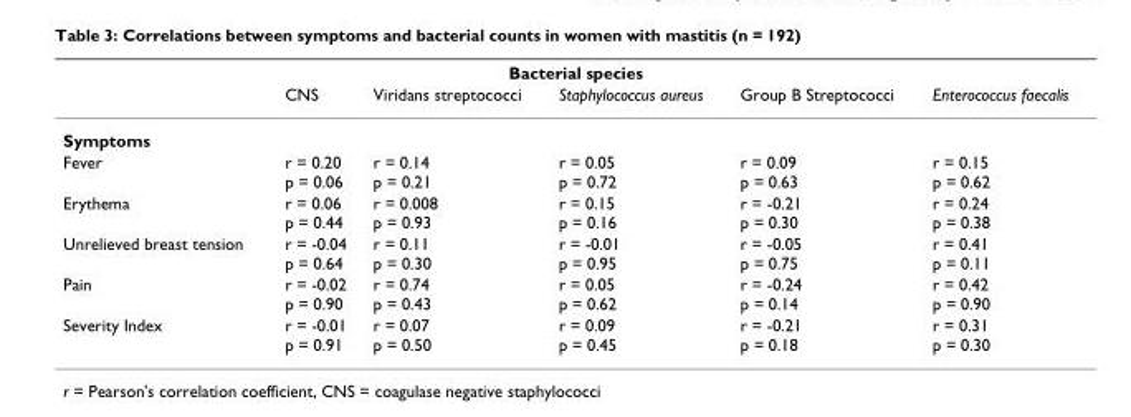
<table><thead><tr><td colspan="6">Bacterial species</td></tr><tr><td></td><td>CNS</td><td>Viridans streptococci</td><td>Staphylococcus aureus</td><td>Group B Streptococci</td><td>Enterococcus faecalis</td></tr></thead><tbody><tr><td colspan="6">Symptoms</td></tr><tr><td>Fever</td><td>r = 0.20 p = 0.06</td><td>r = 0.14 p = 0.21</td><td>r = 0.05 p = 0.72</td><td>r = 0.09 p = 0.63</td><td>r = 0.15 p = 0.62</td></tr><tr><td>Erythema</td><td>r = 0.06 p = 0.44</td><td>r = 0.008 p = 0.93</td><td>r = 0.15 p = 0.16</td><td>r = -0.21 p = 0.30</td><td>r = 0.24 p = 0.38</td></tr><tr><td>Unrelieved breast tension</td><td>r = -0.04 p = 0.64</td><td>r = 0.11 p = 0.30</td><td>r = -0.01 p = 0.95</td><td>r = -0.05 p = 0.75</td><td>r = 0.41 p = 0.11</td></tr><tr><td>Pain</td><td>r = -0.02 p = 0.90</td><td>r = 0.74 p = 0.43</td><td>r = 0.05 p = 0.62</td><td>r = -0.24 p = 0.14</td><td>r = 0.42 p = 0.90</td></tr><tr><td>Severity Index</td><td>r = -0.01 p = 0.91</td><td>r = 0.07 p = 0.50</td><td>r = 0.09 p = 0.45</td><td>r = -0.21 p = 0.18</td><td>r = 0.31 p = 0.30</td></tr></tbody></table>